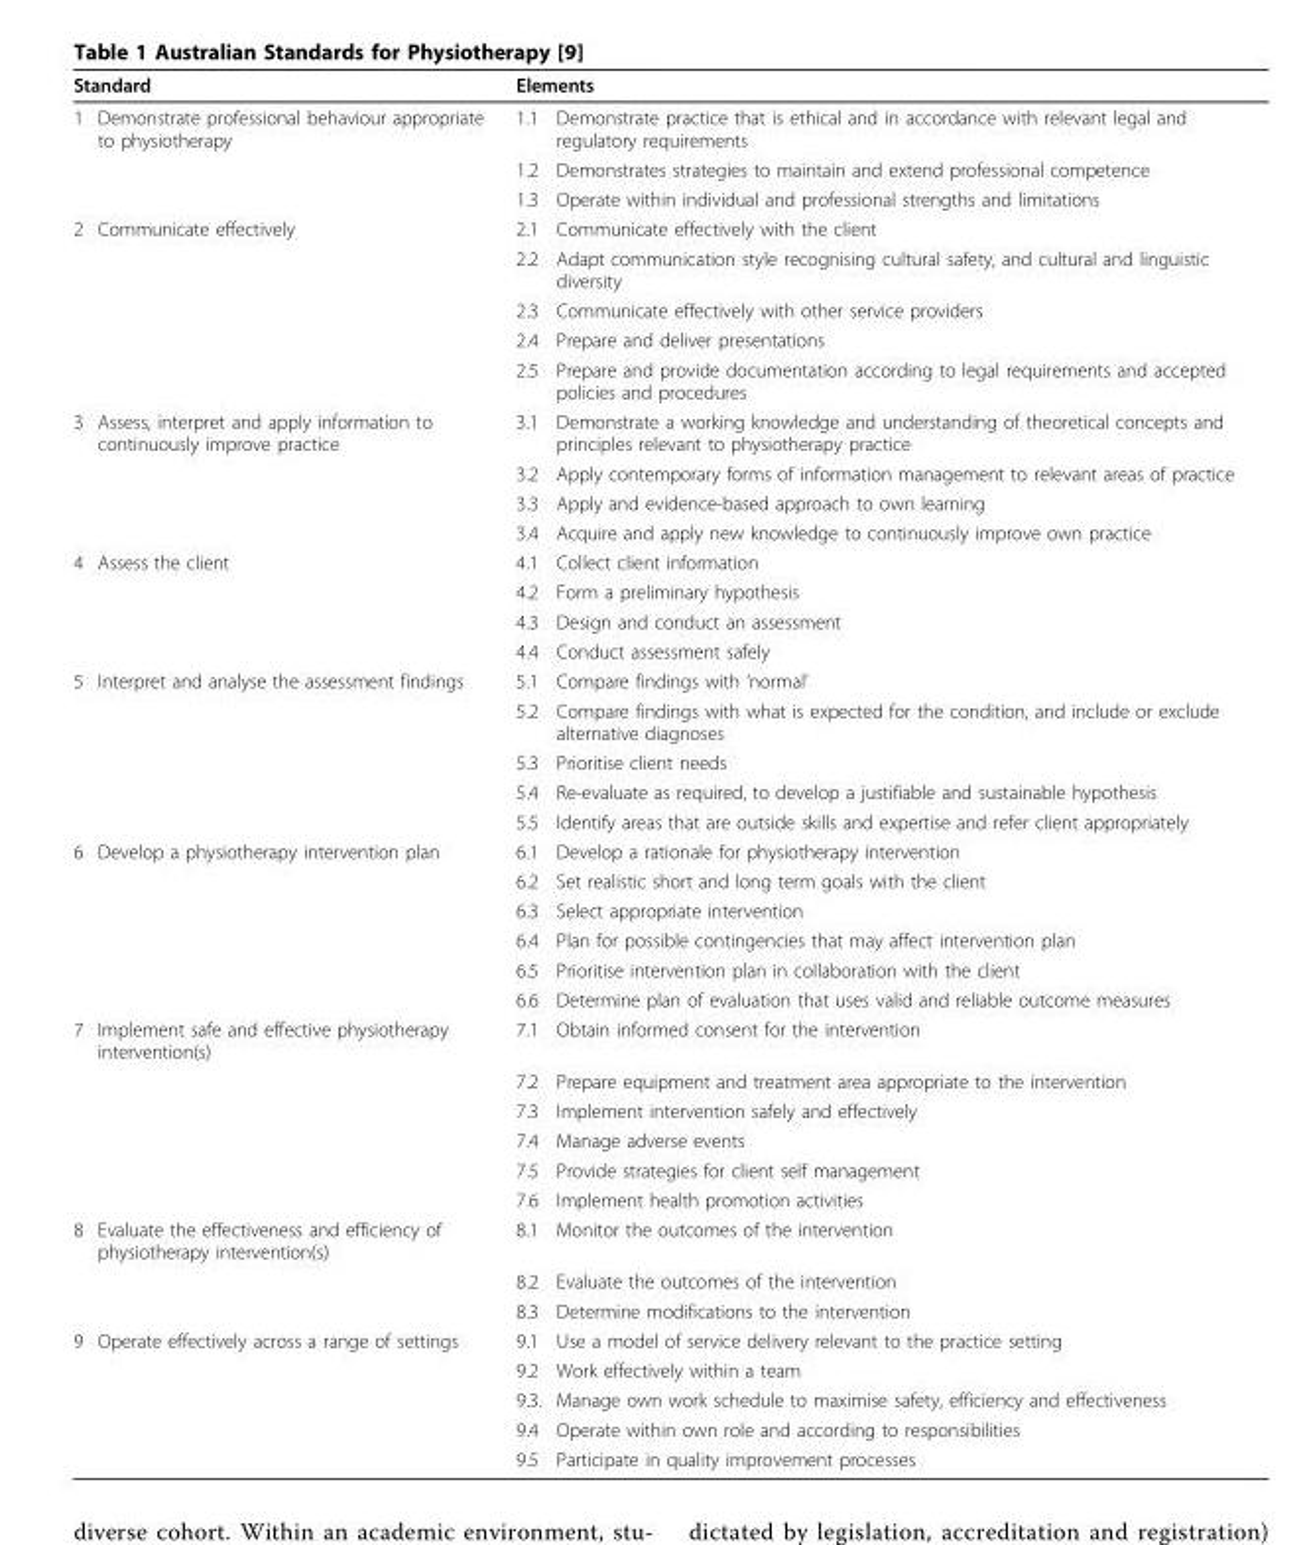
<table><thead><tr><td colspan="2">Standard</td><td colspan="2">Elements</td></tr><tr><td>1</td><td>Demonstrate professional behaviour appropriate to physiotherapy</td><td>1.1</td><td>Demonstrate practice that is ethical and in accordance with relevant legal and regulatory requirements</td></tr></thead><tbody><tr><td></td><td></td><td>1.2</td><td>Demonstrates strategies to maintain and extend professional competence</td></tr><tr><td></td><td></td><td>1.3</td><td>Operate within individual and professional strengths and limitations</td></tr><tr><td rowspan="5">2</td><td>Communicate effectively</td><td>2.1</td><td>Communicate effectively with the client</td></tr><tr><td></td><td>2.2</td><td>Adapt communication style recognising cultural safety, and cultural and linguistic diversity</td></tr><tr><td></td><td>2.3</td><td>Communicate effectively with other service providers</td></tr><tr><td></td><td>2.4</td><td>Prepare and deliver presentations</td></tr><tr><td></td><td>2.5</td><td>Prepare and provide documentation according to legal requirements and accepted policies and procedures</td></tr><tr><td rowspan="4">3</td><td>Assess, interpret and apply information to continuously improve practice</td><td>3.1</td><td>Demonstrate a working knowledge and understanding of theoretical concepts and principles relevant to physiotherapy practice</td></tr><tr><td></td><td>3.2</td><td>Apply contemporary forms of information management to relevant areas of practice</td></tr><tr><td></td><td>3.3</td><td>Apply and evidence-based approach to own learning</td></tr><tr><td></td><td>3.4</td><td>Acquire and apply new knowledge to continuously improve own practice</td></tr><tr><td rowspan="4">4</td><td>Assess the client</td><td>4.1</td><td>Collect client information</td></tr><tr><td></td><td>4.2</td><td>Form a preliminary hypothesis</td></tr><tr><td></td><td>4.3</td><td>Design and conduct an assessment</td></tr><tr><td></td><td>4.4</td><td>Conduct assessment safely</td></tr><tr><td rowspan="5">5</td><td>Interpret and analyse the assessment findings</td><td>5.1</td><td>Compare findings with ‘normal’</td></tr><tr><td></td><td>5.2</td><td>Compare findings with what is expected for the condition, and include or exclude alternative diagnoses</td></tr><tr><td></td><td>5.3</td><td>Prioritise client needs</td></tr><tr><td></td><td>5.4</td><td>Re-evaluate as required, to develop a justifiable and sustainable hypothesis</td></tr><tr><td></td><td>5.5</td><td>Identify areas that are outside skills and expertise and refer client appropriately</td></tr><tr><td rowspan="6">6</td><td>Develop a physiotherapy intervention plan</td><td>6.1</td><td>Develop a rationale for physiotherapy intervention</td></tr><tr><td></td><td>6.2</td><td>Set realistic short and long term goals with the client</td></tr><tr><td></td><td>6.3</td><td>Select appropriate intervention</td></tr><tr><td></td><td>6.4</td><td>Plan for possible contingencies that may affect intervention plan</td></tr><tr><td></td><td>6.5</td><td>Prioritise intervention plan in collaboration with the client</td></tr><tr><td></td><td>6.6</td><td>Determine plan of evaluation that uses valid and reliable outcome measures</td></tr><tr><td rowspan="6">7</td><td>Implement safe and effective physiotherapy intervention(s)</td><td>7.1</td><td>Obtain informed consent for the intervention</td></tr><tr><td></td><td>7.2</td><td>Prepare equipment and treatment area appropriate to the intervention</td></tr><tr><td></td><td>7.3</td><td>Implement intervention safely and effectively</td></tr><tr><td></td><td>7.4</td><td>Manage adverse events</td></tr><tr><td></td><td>7.5</td><td>Provide strategies for client self management</td></tr><tr><td></td><td>7.6</td><td>Implement health promotion activities</td></tr><tr><td rowspan="3">8</td><td>Evaluate the effectiveness and efficiency of physiotherapy intervention(s)</td><td>8.1</td><td>Monitor the outcomes of the intervention</td></tr><tr><td></td><td>8.2</td><td>Evaluate the outcomes of the intervention</td></tr><tr><td></td><td>8.3</td><td>Determine modifications to the intervention</td></tr><tr><td rowspan="5">9</td><td>Operate effectively across a range of settings</td><td>9.1</td><td>Use a model of service delivery relevant to the practice setting</td></tr><tr><td></td><td>9.2</td><td>Work effectively within a team</td></tr><tr><td></td><td>9.3.</td><td>Manage own work schedule to maximise safety, efficiency and effectiveness</td></tr><tr><td></td><td>9.4</td><td>Operate within own role and according to responsibilities</td></tr><tr><td></td><td>9.5</td><td>Participate in quality improvement processes</td></tr></tbody></table>